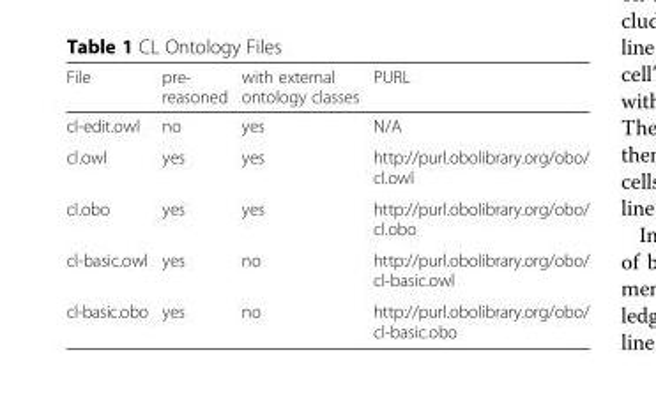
<table><thead><tr><td>File</td><td>pre- reasoned</td><td>with external ontology classes</td><td>PURL</td></tr></thead><tbody><tr><td>cl-edit.owl</td><td>no</td><td>yes</td><td>N/A</td></tr><tr><td>cl.owl</td><td>yes</td><td>yes</td><td>http://purl.obolibrary.org/obo/ cl.owl</td></tr><tr><td>cl.obo</td><td>yes</td><td>yes</td><td>http://purl.obolibrary.org/obo/ cl.obo</td></tr><tr><td>cl-basic.owl</td><td>yes</td><td>no</td><td>http://purl.obolibrary.org/obo/ cl-basic.owl</td></tr><tr><td>cl-basic.obo</td><td>yes</td><td>no</td><td>http://purl.obolibrary.org/obo/ cl-basic.obo</td></tr></tbody></table>